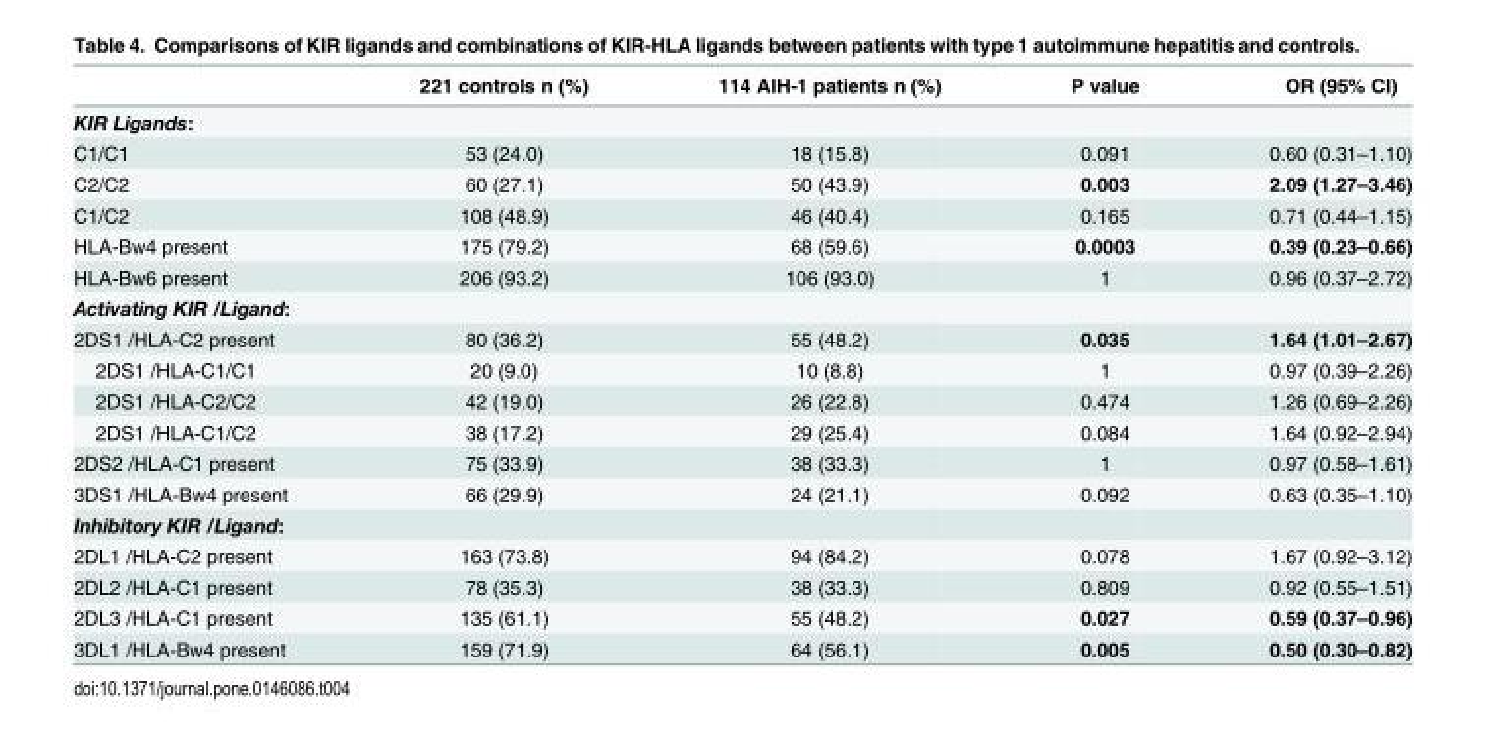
<table><thead><tr><td></td><td>221 controls n (%)</td><td>114 AIH-1 patients n (%)</td><td>P value</td><td>OR (95% CI)</td></tr></thead><tbody><tr><td colspan="5">KIR Ligands:</td></tr><tr><td>C1/C1</td><td>53 (24.0)</td><td>18 (15.8)</td><td>0.091</td><td>0.60 (0.31–1.10)</td></tr><tr><td>C2/C2</td><td>60 (27.1)</td><td>50 (43.9)</td><td>0.003</td><td>2.09 (1.27–3.46)</td></tr><tr><td>C1/C2</td><td>108 (48.9)</td><td>46 (40.4)</td><td>0.165</td><td>0.71 (0.44–1.15)</td></tr><tr><td>HLA-Bw4 present</td><td>175 (79.2)</td><td>68 (59.6)</td><td>0.0003</td><td>0.39 (0.23–0.66)</td></tr><tr><td>HLA-Bw6 present</td><td>206 (93.2)</td><td>106 (93.0)</td><td>1</td><td>0.96 (0.37–2.72)</td></tr><tr><td colspan="5">Activating KIR /Ligand:</td></tr><tr><td>2DS1 /HLA-C2 present</td><td>80 (36.2)</td><td>55 (48.2)</td><td>0.035</td><td>1.64 (1.01–2.67)</td></tr><tr><td>2DS1 /HLA-C1/C1</td><td>20 (9.0)</td><td>10 (8.8)</td><td>1</td><td>0.97 (0.39–2.26)</td></tr><tr><td>2DS1 /HLA-C2/C2</td><td>42 (19.0)</td><td>26 (22.8)</td><td>0.474</td><td>1.26 (0.69–2.26)</td></tr><tr><td>2DS1 /HLA-C1/C2</td><td>38 (17.2)</td><td>29 (25.4)</td><td>0.084</td><td>1.64 (0.92–2.94)</td></tr><tr><td>2DS2 /HLA-C1 present</td><td>75 (33.9)</td><td>38 (33.3)</td><td>1</td><td>0.97 (0.58–1.61)</td></tr><tr><td>3DS1 /HLA-Bw4 present</td><td>66 (29.9)</td><td>24 (21.1)</td><td>0.092</td><td>0.63 (0.35–1.10)</td></tr><tr><td colspan="5">Inhibitory KIR /Ligand:</td></tr><tr><td>2DL1 /HLA-C2 present</td><td>163 (73.8)</td><td>94 (84.2)</td><td>0.078</td><td>1.67 (0.92–3.12)</td></tr><tr><td>2DL2 /HLA-C1 present</td><td>78 (35.3)</td><td>38 (33.3)</td><td>0.809</td><td>0.92 (0.55–1.51)</td></tr><tr><td>2DL3 /HLA-C1 present</td><td>135 (61.1)</td><td>55 (48.2)</td><td>0.027</td><td>0.59 (0.37–0.96)</td></tr><tr><td>3DL1 /HLA-Bw4 present</td><td>159 (71.9)</td><td>64 (56.1)</td><td>0.005</td><td>0.50 (0.30–0.82)</td></tr></tbody></table>